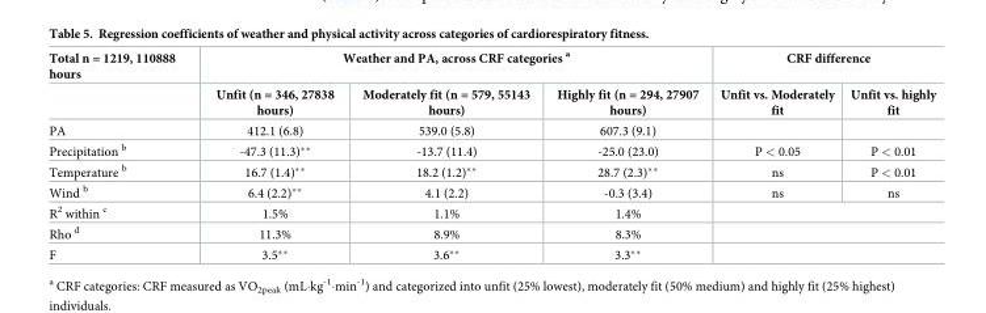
<table><thead><tr><td rowspan="2">Total n = 1219, 110888 hours</td><td colspan="3">Weather and PA, across CRF categories <sup>a</sup></td><td colspan="2">CRF difference</td></tr><tr><td>Unfit (n = 346, 27838 hours)</td><td>Moderately fit (n = 579, 55143 hours)</td><td>Highly fit (n = 294, 27907 hours)</td><td>Unfit vs. Moderately fit</td><td>Unfit vs. highly fit</td></tr></thead><tbody><tr><td>PA</td><td>412.1 (6.8)</td><td>539.0 (5.8)</td><td>607.3 (9.1)</td><td></td><td></td></tr><tr><td>Precipitation <sup>b</sup></td><td>-47.3 (11.3)**</td><td>-13.7 (11.4)</td><td>-25.0 (23.0)</td><td>P &lt; 0.05</td><td>P &lt; 0.01</td></tr><tr><td>Temperature <sup>b</sup></td><td>16.7 (1.4)**</td><td>18.2 (1.2)**</td><td>28.7 (2.3)**</td><td>ns</td><td>P &lt; 0.01</td></tr><tr><td>Wind <sup>b</sup></td><td>6.4 (2.2)**</td><td>4.1 (2.2)</td><td>-0.3 (3.4)</td><td>ns</td><td>ns</td></tr><tr><td>R<sup>2</sup> within <sup>c</sup></td><td>1.5%</td><td>1.1%</td><td>1.4%</td><td colspan="2"></td></tr><tr><td>Rho <sup>d</sup></td><td>11.3%</td><td>8.9%</td><td>8.3%</td><td colspan="2"></td></tr><tr><td>F</td><td>3.5**</td><td>3.6**</td><td>3.3**</td><td colspan="2"></td></tr></tbody></table>